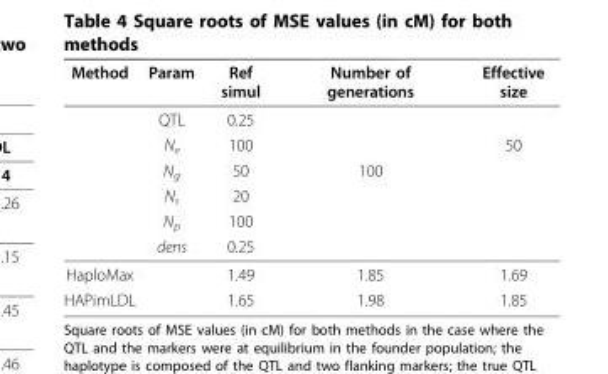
<table><thead><tr><td>Method</td><td>Param</td><td>Ref simul</td><td>Number of generations</td><td>Effective size</td></tr></thead><tbody><tr><td></td><td>QTL</td><td>0.25</td><td></td><td></td></tr><tr><td></td><td>N<sub>e</sub></td><td>100</td><td></td><td>50</td></tr><tr><td></td><td>N<sub>g</sub></td><td>50</td><td>100</td><td></td></tr><tr><td></td><td>N<sub>s</sub></td><td>20</td><td></td><td></td></tr><tr><td></td><td>N<sub>p</sub></td><td>100</td><td></td><td></td></tr><tr><td></td><td>dens</td><td>0.25</td><td></td><td></td></tr><tr><td>HaploMax</td><td></td><td>1.49</td><td>1.85</td><td>1.69</td></tr><tr><td>HAPimLDL</td><td></td><td>1.65</td><td>1.98</td><td>1.85</td></tr></tbody></table>